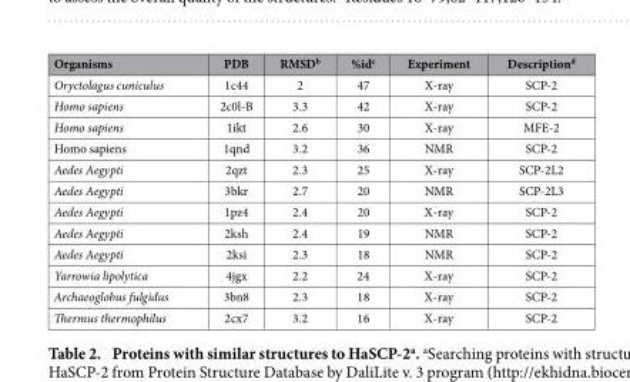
<table><thead><tr><td>Organisms</td><td>PDB</td><td>RMSD<sup>b</sup></td><td>%id<sup>c</sup></td><td>Experiment</td><td>Description<sup>d</sup></td></tr></thead><tbody><tr><td>Oryctolagus cuniculus</td><td>1c44</td><td>2</td><td>47</td><td>X-ray</td><td>SCP-2</td></tr><tr><td>Homo sapiens</td><td>2c0l-B</td><td>3.3</td><td>42</td><td>X-ray</td><td>SCP-2</td></tr><tr><td>Homo sapiens</td><td>1ikt</td><td>2.6</td><td>30</td><td>X-ray</td><td>MFE-2</td></tr><tr><td>Homo sapiens</td><td>1qnd</td><td>3.2</td><td>36</td><td>NMR</td><td>SCP-2</td></tr><tr><td>Aedes Aegypti</td><td>2qzt</td><td>2.3</td><td>25</td><td>X-ray</td><td>SCP-2L2</td></tr><tr><td>Aedes Aegypti</td><td>3bkr</td><td>2.7</td><td>20</td><td>NMR</td><td>SCP-2L3</td></tr><tr><td>Aedes Aegypti</td><td>1pz4</td><td>2.4</td><td>20</td><td>X-ray</td><td>SCP-2</td></tr><tr><td>Aedes Aegypti</td><td>2ksh</td><td>2.4</td><td>19</td><td>NMR</td><td>SCP-2</td></tr><tr><td>Aedes Aegypti</td><td>2ksi</td><td>2.3</td><td>18</td><td>NMR</td><td>SCP-2</td></tr><tr><td>Yarrowia lipolytica</td><td>4jgx</td><td>2.2</td><td>24</td><td>X-ray</td><td>SCP-2</td></tr><tr><td>Archaeoglobus fulgidus</td><td>3bn8</td><td>2.3</td><td>18</td><td>X-ray</td><td>SCP-2</td></tr><tr><td>Thermus thermophilus</td><td>2cx7</td><td>3.2</td><td>16</td><td>X-ray</td><td>SCP-2</td></tr></tbody></table>